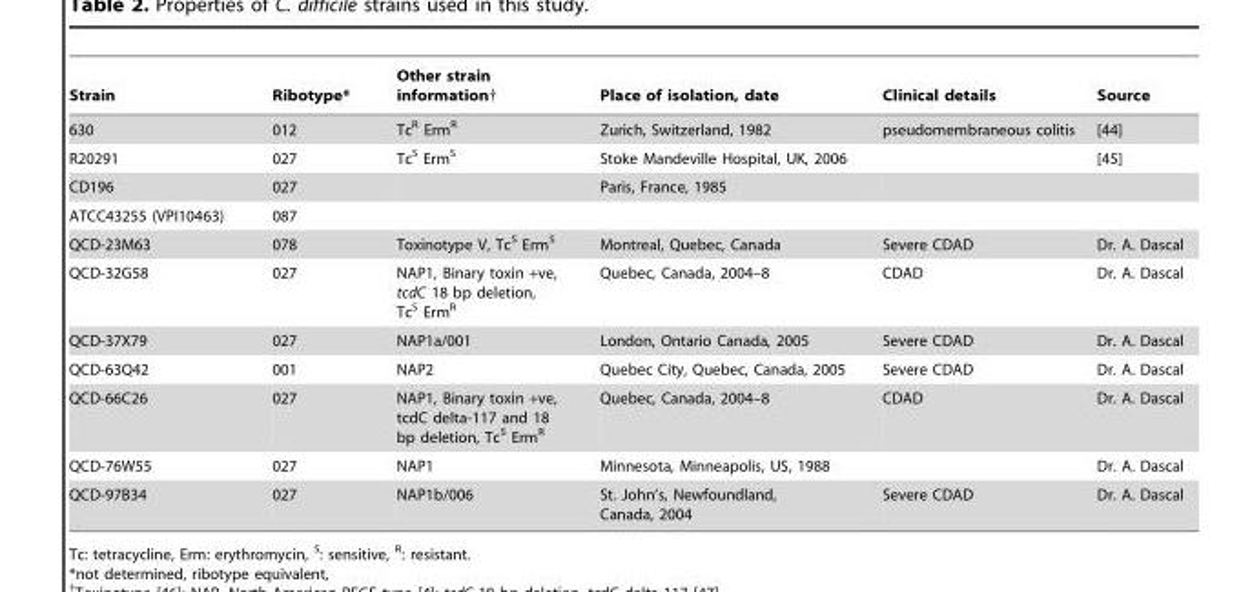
<table><thead><tr><td>Strain</td><td>Ribotype*</td><td>Other strain information†</td><td>Place of isolation, date</td><td>Clinical details</td><td>Source</td></tr></thead><tbody><tr><td>630</td><td>012</td><td>Tc<sup>R</sup> Erm<sup>R</sup></td><td>Zurich, Switzerland, 1982</td><td>pseudomembraneous colitis</td><td>[44]</td></tr><tr><td>R20291</td><td>027</td><td>Tc<sup>S</sup> Erm<sup>S</sup></td><td>Stoke Mandeville Hospital, UK, 2006</td><td></td><td>[45]</td></tr><tr><td>CD196</td><td>027</td><td></td><td>Paris, France, 1985</td><td></td><td></td></tr><tr><td>ATCC43255 (VPI10463)</td><td>087</td><td></td><td></td><td></td><td></td></tr><tr><td>QCD-23M63</td><td>078</td><td>Toxinotype V, Tc<sup>S</sup> Erm<sup>S</sup></td><td>Montreal, Quebec, Canada</td><td>Severe CDAD</td><td>Dr. A. Dascal</td></tr><tr><td>QCD-32G58</td><td>027</td><td>NAP1, Binary toxin +ve, tcdC 18 bp deletion, Tc<sup>S</sup> Erm<sup>R</sup></td><td>Quebec, Canada, 2004–8</td><td>CDAD</td><td>Dr. A. Dascal</td></tr><tr><td>QCD-37X79</td><td>027</td><td>NAP1a/001</td><td>London, Ontario Canada, 2005</td><td>Severe CDAD</td><td>Dr. A. Dascal</td></tr><tr><td>QCD-63Q42</td><td>001</td><td>NAP2</td><td>Quebec City, Quebec, Canada, 2005</td><td>Severe CDAD</td><td>Dr. A. Dascal</td></tr><tr><td>QCD-66C26</td><td>027</td><td>NAP1, Binary toxin +ve, tcdC delta-117 and 18 bp deletion, Tc<sup>S</sup> Erm<sup>R</sup></td><td>Quebec, Canada, 2004–8</td><td>CDAD</td><td>Dr. A. Dascal</td></tr><tr><td>QCD-76W55</td><td>027</td><td>NAP1</td><td>Minnesota, Minneapolis, US, 1988</td><td></td><td>Dr. A. Dascal</td></tr><tr><td>QCD-97B34</td><td>027</td><td>NAP1b/006</td><td>St. John’s, Newfoundland, Canada, 2004</td><td>Severe CDAD</td><td>Dr. A. Dascal</td></tr></tbody></table>